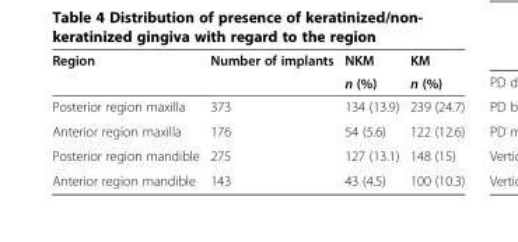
<table><thead><tr><td rowspan="2">Region</td><td rowspan="2">Number of implants</td><td rowspan="2">NKM n (%)</td><td rowspan="2">KM n (%)</td></tr><tr></tr></thead><tbody><tr><td>Posterior region maxilla</td><td>373</td><td>134 (13.9)</td><td>239 (24.7)</td></tr><tr><td>Anterior region maxilla</td><td>176</td><td>54 (5.6)</td><td>122 (12.6)</td></tr><tr><td>Posterior region mandible</td><td>275</td><td>127 (13.1)</td><td>148 (15)</td></tr><tr><td>Anterior region mandible</td><td>143</td><td>43 (4.5)</td><td>100 (10.3)</td></tr></tbody></table>